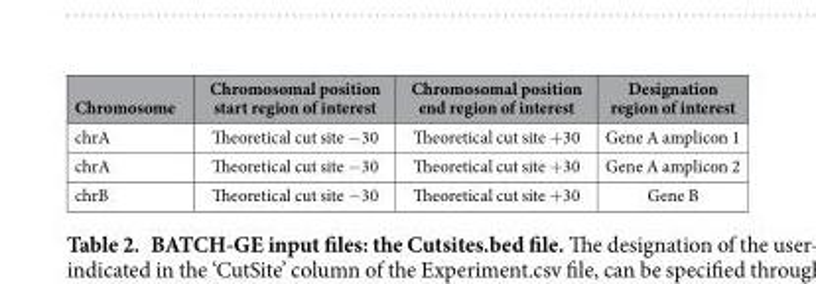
<table><thead><tr><td>Chromosome</td><td>Chromosomal position start region of interest</td><td>Chromosomal position end region of interest</td><td>Designation region of interest</td></tr></thead><tbody><tr><td>chrA</td><td>Theoretical cut site − 30</td><td>Theoretical cut site + 30</td><td>Gene A amplicon 1</td></tr><tr><td>chrA</td><td>Theoretical cut site − 30</td><td>Theoretical cut site + 30</td><td>Gene A amplicon 2</td></tr><tr><td>chrB</td><td>Theoretical cut site − 30</td><td>Theoretical cut site + 30</td><td>Gene B</td></tr></tbody></table>